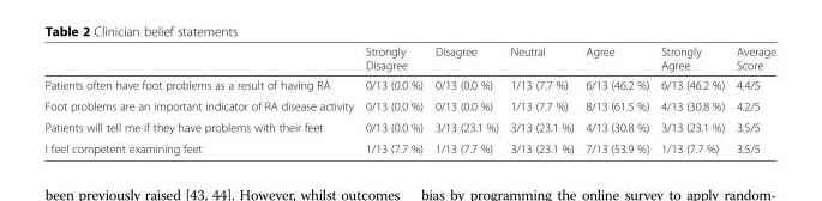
<table><thead><tr><td></td><td>Strongly Disagree</td><td>Disagree</td><td>Neutral</td><td>Agree</td><td>Strongly Agree</td><td>Average Score</td></tr></thead><tbody><tr><td>Patients often have foot problems as a result of having RA</td><td>0/13 (0.0 %)</td><td>0/13 (0.0 %)</td><td>1/13 (7.7 %)</td><td>6/13 (46.2 %)</td><td>6/13 (46.2 %)</td><td>4.4/5</td></tr><tr><td>Foot problems are an important indicator of RA disease activity</td><td>0/13 (0.0 %)</td><td>0/13 (0.0 %)</td><td>1/13 (7.7 %)</td><td>8/13 (61.5 %)</td><td>4/13 (30.8 %)</td><td>4.2/5</td></tr><tr><td>Patients will tell me if they have problems with their feet</td><td>0/13 (0.0 %)</td><td>3/13 (23.1 %)</td><td>3/13 (23.1 %)</td><td>4/13 (30.8 %)</td><td>3/13 (23.1 %)</td><td>3.5/5</td></tr><tr><td>I feel competent examining feet</td><td>1/13 (7.7 %)</td><td>1/13 (7.7 %)</td><td>3/13 (23.1 %)</td><td>7/13 (53.9 %)</td><td>1/13 (7.7 %)</td><td>3.5/5</td></tr></tbody></table>